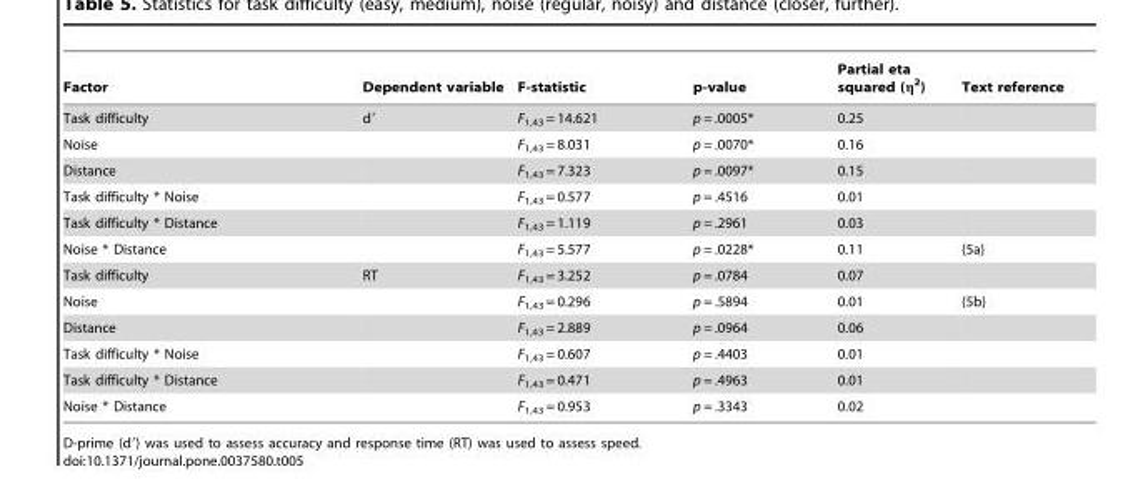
<table><thead><tr><td>Factor</td><td>Dependent variable</td><td>F-statistic</td><td>p-value</td><td>Partial eta squared (η<sup>2</sup>)</td><td>Text reference</td></tr></thead><tbody><tr><td>Task difficulty</td><td>d′</td><td>F<sub>1,43</sub> = 14.621</td><td>p = .0005*</td><td>0.25</td><td></td></tr><tr><td>Noise</td><td></td><td>F<sub>1,43</sub> = 8.031</td><td>p = .0070*</td><td>0.16</td><td></td></tr><tr><td>Distance</td><td></td><td>F<sub>1,43</sub> = 7.323</td><td>p = .0097*</td><td>0.15</td><td></td></tr><tr><td>Task difficulty * Noise</td><td></td><td>F<sub>1,43</sub> = 0.577</td><td>p = .4516</td><td>0.01</td><td></td></tr><tr><td>Task difficulty * Distance</td><td></td><td>F<sub>1,43</sub> = 1.119</td><td>p = .2961</td><td>0.03</td><td></td></tr><tr><td>Noise * Distance</td><td></td><td>F<sub>1,43</sub> = 5.577</td><td>p = .0228*</td><td>0.11</td><td>{5a}</td></tr><tr><td>Task difficulty</td><td>RT</td><td>F<sub>1,43</sub> = 3.252</td><td>p = .0784</td><td>0.07</td><td></td></tr><tr><td>Noise</td><td></td><td>F<sub>1,43</sub> = 0.296</td><td>p = .5894</td><td>0.01</td><td>{5b}</td></tr><tr><td>Distance</td><td></td><td>F<sub>1,43</sub> = 2.889</td><td>p = .0964</td><td>0.06</td><td></td></tr><tr><td>Task difficulty * Noise</td><td></td><td>F<sub>1,43</sub> = 0.607</td><td>p = .4403</td><td>0.01</td><td></td></tr><tr><td>Task difficulty * Distance</td><td></td><td>F<sub>1,43</sub> = 0.471</td><td>p = .4963</td><td>0.01</td><td></td></tr><tr><td>Noise * Distance</td><td></td><td>F<sub>1,43</sub> = 0.953</td><td>p = .3343</td><td>0.02</td><td></td></tr></tbody></table>